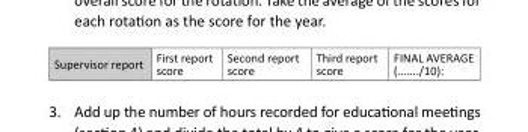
<table><tbody><tr><td>Supervisor report</td><td>First report score</td><td>Second report score</td><td>Third report score</td><td>FINAL AVERAGE (…..../10):</td></tr></tbody></table>